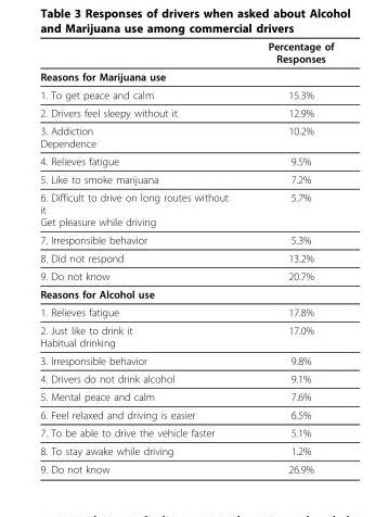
<table><thead><tr><td></td><td>Percentage of Responses</td></tr></thead><tbody><tr><td colspan="2">Reasons for Marijuana use</td></tr><tr><td>1. To get peace and calm</td><td>15.3%</td></tr><tr><td>2. Drivers feel sleepy without it</td><td>12.9%</td></tr><tr><td>3. Addiction Dependence</td><td>10.2%</td></tr><tr><td>4. Relieves fatigue</td><td>9.5%</td></tr><tr><td>5. Like to smoke marijuana</td><td>7.2%</td></tr><tr><td>6. Difficult to drive on long routes without it Get pleasure while driving</td><td>5.7%</td></tr><tr><td>7. Irresponsible behavior</td><td>5.3%</td></tr><tr><td>8. Did not respond</td><td>13.2%</td></tr><tr><td>9. Do not know</td><td>20.7%</td></tr><tr><td colspan="2">Reasons for Alcohol use</td></tr><tr><td>1. Relieves fatigue</td><td>17.8%</td></tr><tr><td>2. Just like to drink it Habitual drinking</td><td>17.0%</td></tr><tr><td>3. Irresponsible behavior</td><td>9.8%</td></tr><tr><td>4. Drivers do not drink alcohol</td><td>9.1%</td></tr><tr><td>5. Mental peace and calm</td><td>7.6%</td></tr><tr><td>6. Feel relaxed and driving is easier</td><td>6.5%</td></tr><tr><td>7. To be able to drive the vehicle faster</td><td>5.1%</td></tr><tr><td>8. To stay awake while driving</td><td>1.2%</td></tr><tr><td>9. Do not know</td><td>26.9%</td></tr></tbody></table>